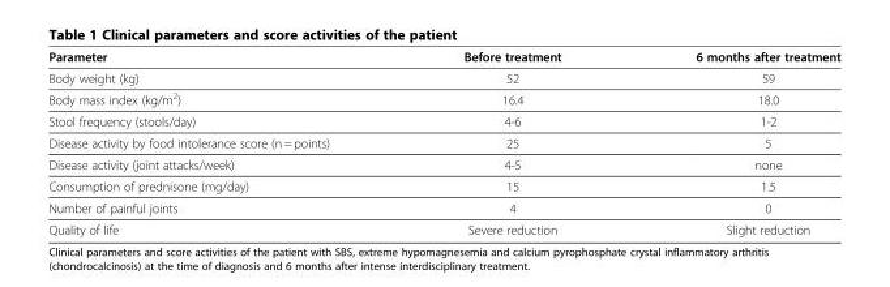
<table><thead><tr><td>Parameter</td><td>Before treatment</td><td>6 months after treatment</td></tr></thead><tbody><tr><td>Body weight (kg)</td><td>52</td><td>59</td></tr><tr><td>Body mass index (kg/m<sup>2</sup>)</td><td>16.4</td><td>18.0</td></tr><tr><td>Stool frequency (stools/day)</td><td>4-6</td><td>1-2</td></tr><tr><td>Disease activity by food intolerance score (n = points)</td><td>25</td><td>5</td></tr><tr><td>Disease activity (joint attacks/week)</td><td>4-5</td><td>none</td></tr><tr><td>Consumption of prednisone (mg/day)</td><td>15</td><td>1.5</td></tr><tr><td>Number of painful joints</td><td>4</td><td>0</td></tr><tr><td>Quality of life</td><td>Severe reduction</td><td>Slight reduction</td></tr></tbody></table>